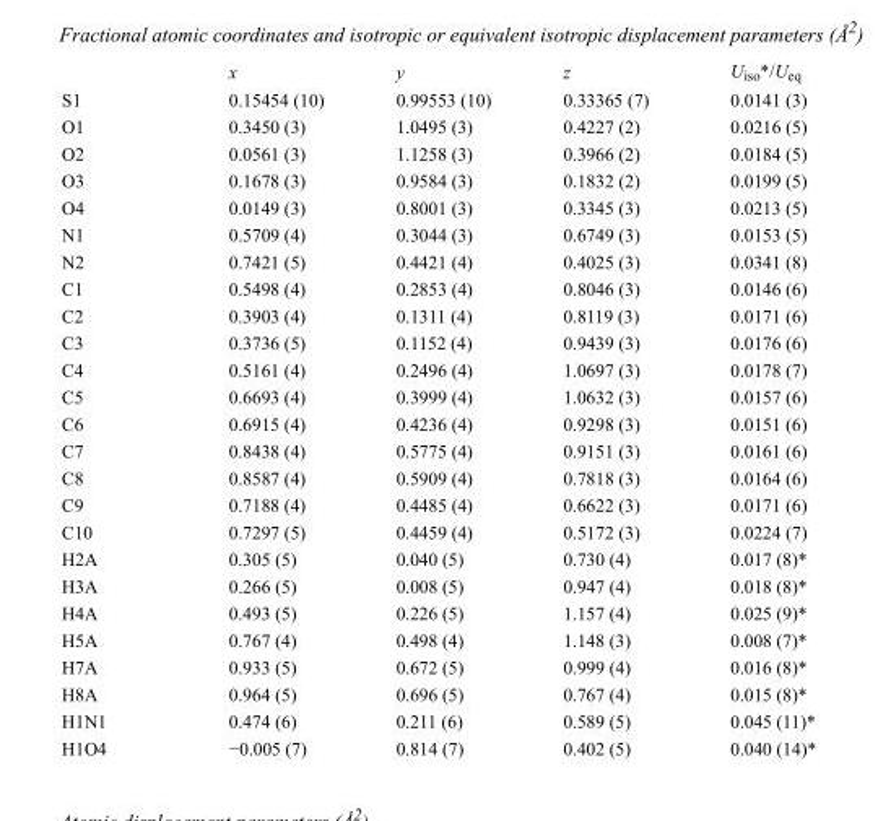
<table><thead><tr><td></td><td>x</td><td>y</td><td>z</td><td>U<sub>iso</sub>*/U<sub>eq</sub></td></tr></thead><tbody><tr><td>S1</td><td>0.15454 (10)</td><td>0.99553 (10)</td><td>0.33365 (7)</td><td>0.0141 (3)</td></tr><tr><td>O1</td><td>0.3450 (3)</td><td>1.0495 (3)</td><td>0.4227 (2)</td><td>0.0216 (5)</td></tr><tr><td>O2</td><td>0.0561 (3)</td><td>1.1258 (3)</td><td>0.3966 (2)</td><td>0.0184 (5)</td></tr><tr><td>O3</td><td>0.1678 (3)</td><td>0.9584 (3)</td><td>0.1832 (2)</td><td>0.0199 (5)</td></tr><tr><td>O4</td><td>0.0149 (3)</td><td>0.8001 (3)</td><td>0.3345 (3)</td><td>0.0213 (5)</td></tr><tr><td>N1</td><td>0.5709 (4)</td><td>0.3044 (3)</td><td>0.6749 (3)</td><td>0.0153 (5)</td></tr><tr><td>N2</td><td>0.7421 (5)</td><td>0.4421 (4)</td><td>0.4025 (3)</td><td>0.0341 (8)</td></tr><tr><td>C1</td><td>0.5498 (4)</td><td>0.2853 (4)</td><td>0.8046 (3)</td><td>0.0146 (6)</td></tr><tr><td>C2</td><td>0.3903 (4)</td><td>0.1311 (4)</td><td>0.8119 (3)</td><td>0.0171 (6)</td></tr><tr><td>C3</td><td>0.3736 (5)</td><td>0.1152 (4)</td><td>0.9439 (3)</td><td>0.0176 (6)</td></tr><tr><td>C4</td><td>0.5161 (4)</td><td>0.2496 (4)</td><td>1.0697 (3)</td><td>0.0178 (7)</td></tr><tr><td>C5</td><td>0.6693 (4)</td><td>0.3999 (4)</td><td>1.0632 (3)</td><td>0.0157 (6)</td></tr><tr><td>C6</td><td>0.6915 (4)</td><td>0.4236 (4)</td><td>0.9298 (3)</td><td>0.0151 (6)</td></tr><tr><td>C7</td><td>0.8438 (4)</td><td>0.5775 (4)</td><td>0.9151 (3)</td><td>0.0161 (6)</td></tr><tr><td>C8</td><td>0.8587 (4)</td><td>0.5909 (4)</td><td>0.7818 (3)</td><td>0.0164 (6)</td></tr><tr><td>C9</td><td>0.7188 (4)</td><td>0.4485 (4)</td><td>0.6622 (3)</td><td>0.0171 (6)</td></tr><tr><td>C10</td><td>0.7297 (5)</td><td>0.4459 (4)</td><td>0.5172 (3)</td><td>0.0224 (7)</td></tr><tr><td>H2A</td><td>0.305 (5)</td><td>0.040 (5)</td><td>0.730 (4)</td><td>0.017 (8)*</td></tr><tr><td>H3A</td><td>0.266 (5)</td><td>0.008 (5)</td><td>0.947 (4)</td><td>0.018 (8)*</td></tr><tr><td>H4A</td><td>0.493 (5)</td><td>0.226 (5)</td><td>1.157 (4)</td><td>0.025 (9)*</td></tr><tr><td>H5A</td><td>0.767 (4)</td><td>0.498 (4)</td><td>1.148 (3)</td><td>0.008 (7)*</td></tr><tr><td>H7A</td><td>0.933 (5)</td><td>0.672 (5)</td><td>0.999 (4)</td><td>0.016 (8)*</td></tr><tr><td>H8A</td><td>0.964 (5)</td><td>0.696 (5)</td><td>0.767 (4)</td><td>0.015 (8)*</td></tr><tr><td>H1N1</td><td>0.474 (6)</td><td>0.211 (6)</td><td>0.589 (5)</td><td>0.045 (11)*</td></tr><tr><td>H1O4</td><td>−0.005 (7)</td><td>0.814 (7)</td><td>0.402 (5)</td><td>0.040 (14)*</td></tr></tbody></table>